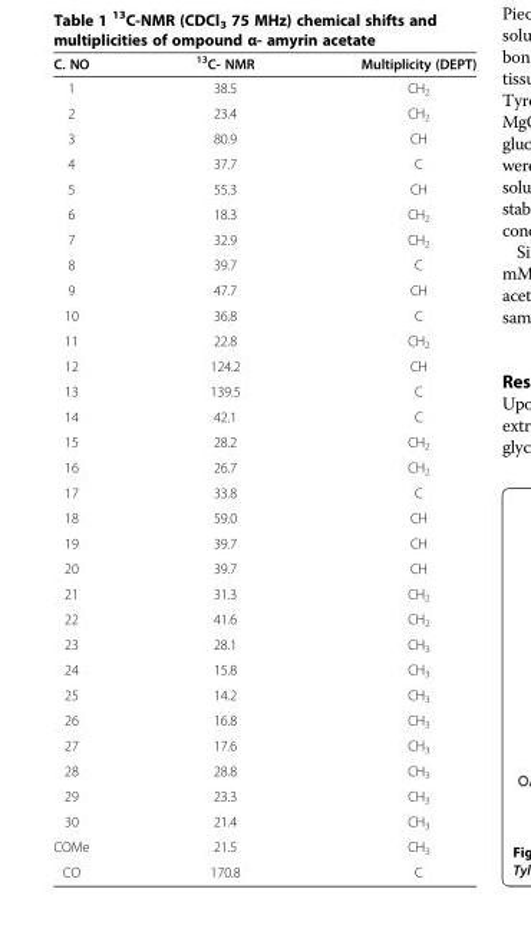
<table><thead><tr><td>C. NO</td><td><sup>13</sup>C- NMR</td><td>Multiplicity (DEPT)</td></tr></thead><tbody><tr><td>1</td><td>38.5</td><td>CH<sub>2</sub></td></tr><tr><td>2</td><td>23.4</td><td>CH<sub>2</sub></td></tr><tr><td>3</td><td>80.9</td><td>CH</td></tr><tr><td>4</td><td>37.7</td><td>C</td></tr><tr><td>5</td><td>55.3</td><td>CH</td></tr><tr><td>6</td><td>18.3</td><td>CH<sub>2</sub></td></tr><tr><td>7</td><td>32.9</td><td>CH<sub>2</sub></td></tr><tr><td>8</td><td>39.7</td><td>C</td></tr><tr><td>9</td><td>47.7</td><td>CH</td></tr><tr><td>10</td><td>36.8</td><td>C</td></tr><tr><td>11</td><td>22.8</td><td>CH<sub>2</sub></td></tr><tr><td>12</td><td>124.2</td><td>CH</td></tr><tr><td>13</td><td>139.5</td><td>C</td></tr><tr><td>14</td><td>42.1</td><td>C</td></tr><tr><td>15</td><td>28.2</td><td>CH<sub>2</sub></td></tr><tr><td>16</td><td>26.7</td><td>CH<sub>2</sub></td></tr><tr><td>17</td><td>33.8</td><td>C</td></tr><tr><td>18</td><td>59.0</td><td>CH</td></tr><tr><td>19</td><td>39.7</td><td>CH</td></tr><tr><td>20</td><td>39.7</td><td>CH</td></tr><tr><td>21</td><td>31.3</td><td>CH<sub>2</sub></td></tr><tr><td>22</td><td>41.6</td><td>CH<sub>2</sub></td></tr><tr><td>23</td><td>28.1</td><td>CH<sub>3</sub></td></tr><tr><td>24</td><td>15.8</td><td>CH<sub>3</sub></td></tr><tr><td>25</td><td>14.2</td><td>CH<sub>3</sub></td></tr><tr><td>26</td><td>16.8</td><td>CH<sub>3</sub></td></tr><tr><td>27</td><td>17.6</td><td>CH<sub>3</sub></td></tr><tr><td>28</td><td>28.8</td><td>CH<sub>3</sub></td></tr><tr><td>29</td><td>23.3</td><td>CH<sub>3</sub></td></tr><tr><td>30</td><td>21.4</td><td>CH<sub>3</sub></td></tr><tr><td>COMe</td><td>21.5</td><td>CH<sub>3</sub></td></tr><tr><td>CO</td><td>170.8</td><td>C</td></tr></tbody></table>